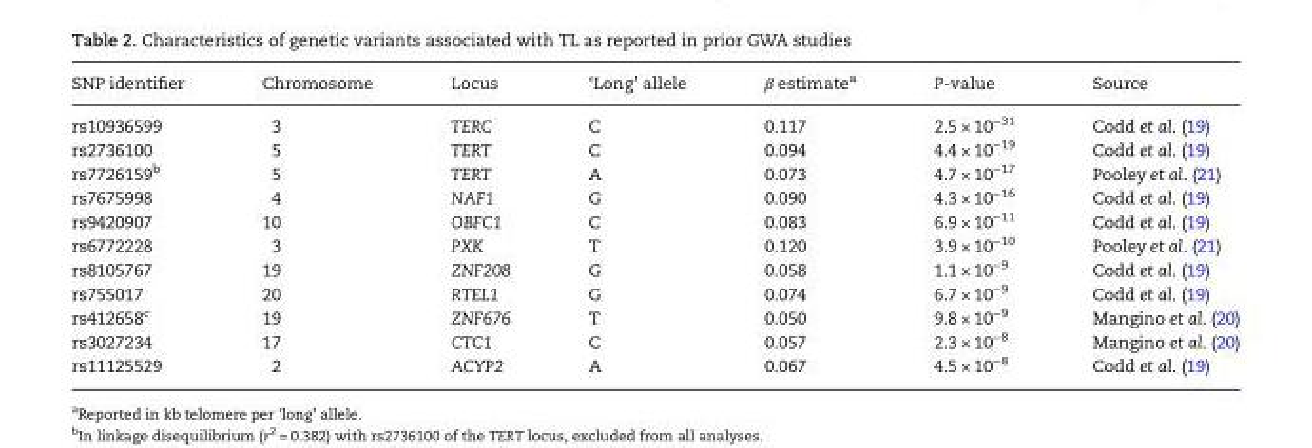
<table><thead><tr><td>SNP identifier</td><td>Chromosome</td><td>Locus</td><td>‘Long’ allele</td><td>β estimate<sup>a</sup></td><td>P-value</td><td>Source</td></tr></thead><tbody><tr><td>rs10936599</td><td>3</td><td>TERC</td><td>C</td><td>0.117</td><td>2.5 × 10<sup>−31</sup></td><td>Codd et al. (19)</td></tr><tr><td>rs2736100</td><td>5</td><td>TERT</td><td>C</td><td>0.094</td><td>4.4 × 10<sup>−19</sup></td><td>Codd et al. (19)</td></tr><tr><td>rs7726159<sup>b</sup></td><td>5</td><td>TERT</td><td>A</td><td>0.073</td><td>4.7 × 10<sup>−17</sup></td><td>Pooley et al. (21)</td></tr><tr><td>rs7675998</td><td>4</td><td>NAF1</td><td>G</td><td>0.090</td><td>4.3 × 10<sup>−16</sup></td><td>Codd et al. (19)</td></tr><tr><td>rs9420907</td><td>10</td><td>OBFC1</td><td>C</td><td>0.083</td><td>6.9 × 10<sup>−11</sup></td><td>Codd et al. (19)</td></tr><tr><td>rs6772228</td><td>3</td><td>PXK</td><td>T</td><td>0.120</td><td>3.9 × 10<sup>−10</sup></td><td>Pooley et al. (21)</td></tr><tr><td>rs8105767</td><td>19</td><td>ZNF208</td><td>G</td><td>0.058</td><td>1.1 × 10<sup>−9</sup></td><td>Codd et al. (19)</td></tr><tr><td>rs755017</td><td>20</td><td>RTEL1</td><td>G</td><td>0.074</td><td>6.7 × 10<sup>−9</sup></td><td>Codd et al. (19)</td></tr><tr><td>rs412658<sup>c</sup></td><td>19</td><td>ZNF676</td><td>T</td><td>0.050</td><td>9.8 × 10<sup>−9</sup></td><td>Mangino et al. (20)</td></tr><tr><td>rs3027234</td><td>17</td><td>CTC1</td><td>C</td><td>0.057</td><td>2.3 × 10<sup>−8</sup></td><td>Mangino et al. (20)</td></tr><tr><td>rs11125529</td><td>2</td><td>ACYP2</td><td>A</td><td>0.067</td><td>4.5 × 10<sup>−8</sup></td><td>Codd et al. (19)</td></tr></tbody></table>